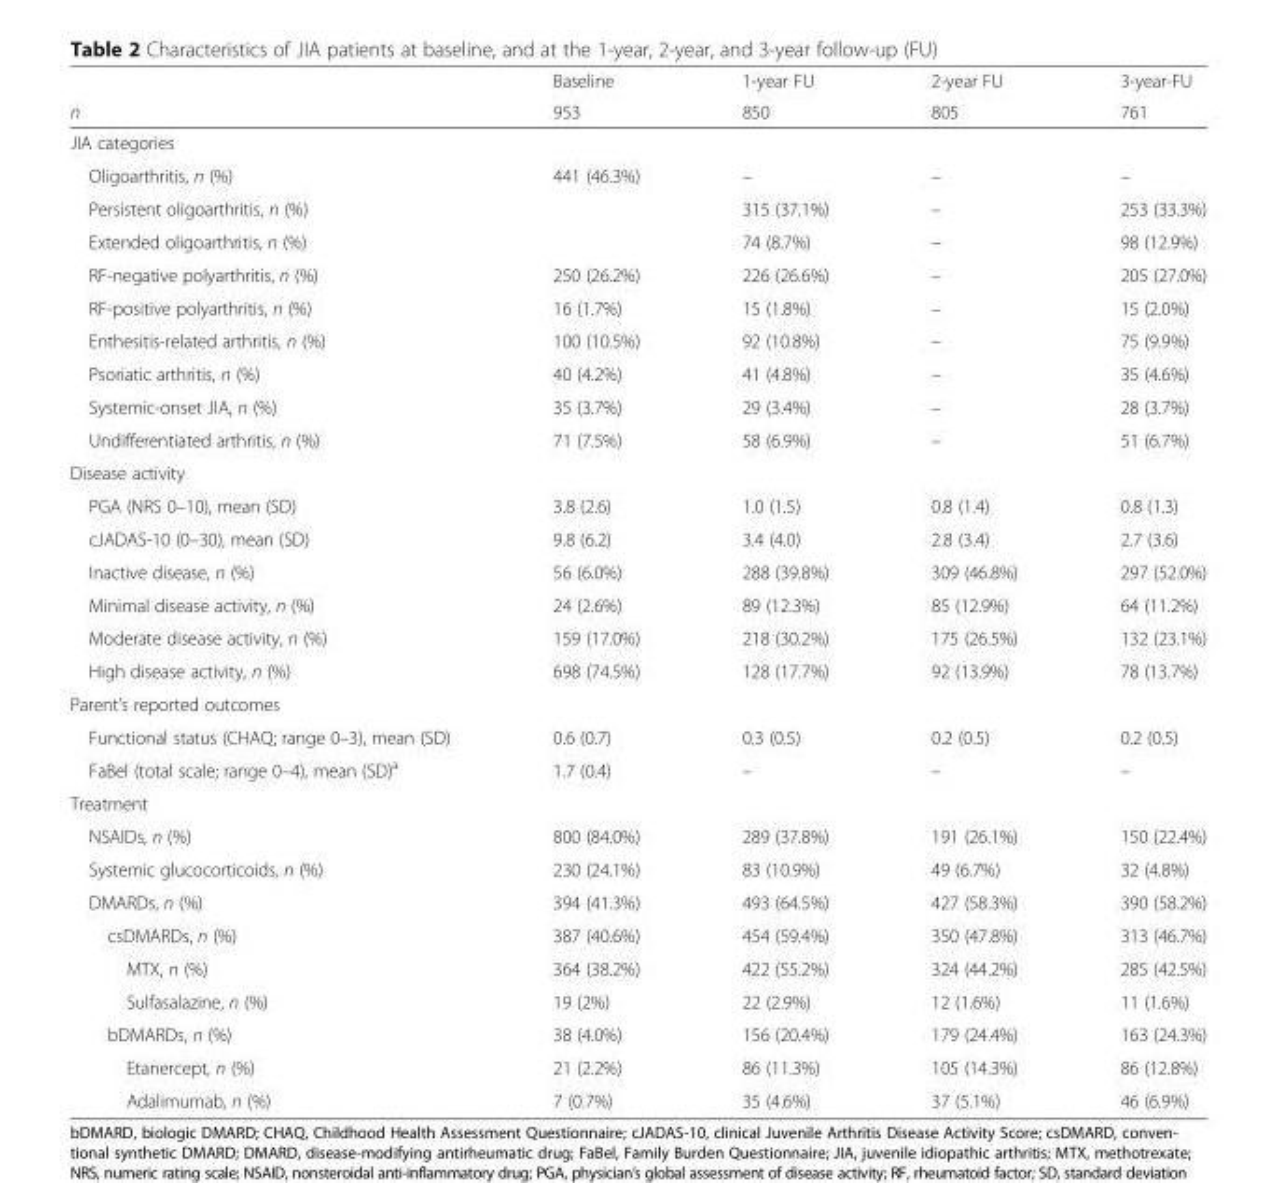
<table><thead><tr><td rowspan="2">n</td><td rowspan="2">Baseline 953</td><td rowspan="2">1-year FU 850</td><td rowspan="2">2-year FU 805</td><td rowspan="2">3-year-FU 761</td></tr><tr></tr></thead><tbody><tr><td colspan="5">JIA categories</td></tr><tr><td>Oligoarthritis, n (%)</td><td>441 (46.3%)</td><td>–</td><td>–</td><td>–</td></tr><tr><td>Persistent oligoarthritis, n (%)</td><td></td><td>315 (37.1%)</td><td>–</td><td>253 (33.3%)</td></tr><tr><td>Extended oligoarthritis, n (%)</td><td></td><td>74 (8.7%)</td><td>–</td><td>98 (12.9%)</td></tr><tr><td>RF-negative polyarthritis, n (%)</td><td>250 (26.2%)</td><td>226 (26.6%)</td><td>–</td><td>205 (27.0%)</td></tr><tr><td>RF-positive polyarthritis, n (%)</td><td>16 (1.7%)</td><td>15 (1.8%)</td><td>–</td><td>15 (2.0%)</td></tr><tr><td>Enthesitis-related arthritis, n (%)</td><td>100 (10.5%)</td><td>92 (10.8%)</td><td>–</td><td>75 (9.9%)</td></tr><tr><td>Psoriatic arthritis, n (%)</td><td>40 (4.2%)</td><td>41 (4.8%)</td><td>–</td><td>35 (4.6%)</td></tr><tr><td>Systemic-onset JIA, n (%)</td><td>35 (3.7%)</td><td>29 (3.4%)</td><td>–</td><td>28 (3.7%)</td></tr><tr><td>Undifferentiated arthritis, n (%)</td><td>71 (7.5%)</td><td>58 (6.9%)</td><td>–</td><td>51 (6.7%)</td></tr><tr><td colspan="5">Disease activity</td></tr><tr><td>PGA (NRS 0–10), mean (SD)</td><td>3.8 (2.6)</td><td>1.0 (1.5)</td><td>0.8 (1.4)</td><td>0.8 (1.3)</td></tr><tr><td>cJADAS-10 (0–30), mean (SD)</td><td>9.8 (6.2)</td><td>3.4 (4.0)</td><td>2.8 (3.4)</td><td>2.7 (3.6)</td></tr><tr><td>Inactive disease, n (%)</td><td>56 (6.0%)</td><td>288 (39.8%)</td><td>309 (46.8%)</td><td>297 (52.0%)</td></tr><tr><td>Minimal disease activity, n (%)</td><td>24 (2.6%)</td><td>89 (12.3%)</td><td>85 (12.9%)</td><td>64 (11.2%)</td></tr><tr><td>Moderate disease activity, n (%)</td><td>159 (17.0%)</td><td>218 (30.2%)</td><td>175 (26.5%)</td><td>132 (23.1%)</td></tr><tr><td>High disease activity, n (%)</td><td>698 (74.5%)</td><td>128 (17.7%)</td><td>92 (13.9%)</td><td>78 (13.7%)</td></tr><tr><td colspan="5">Parent’s reported outcomes</td></tr><tr><td>Functional status (CHAQ; range 0–3), mean (SD)</td><td>0.6 (0.7)</td><td>0.3 (0.5)</td><td>0.2 (0.5)</td><td>0.2 (0.5)</td></tr><tr><td>FaBel (total scale; range 0–4), mean (SD)<sup>a</sup></td><td>1.7 (0.4)</td><td>–</td><td>–</td><td>–</td></tr><tr><td colspan="5">Treatment</td></tr><tr><td>NSAIDs, n (%)</td><td>800 (84.0%)</td><td>289 (37.8%)</td><td>191 (26.1%)</td><td>150 (22.4%)</td></tr><tr><td>Systemic glucocorticoids, n (%)</td><td>230 (24.1%)</td><td>83 (10.9%)</td><td>49 (6.7%)</td><td>32 (4.8%)</td></tr><tr><td>DMARDs, n (%)</td><td>394 (41.3%)</td><td>493 (64.5%)</td><td>427 (58.3%)</td><td>390 (58.2%)</td></tr><tr><td>csDMARDs, n (%)</td><td>387 (40.6%)</td><td>454 (59.4%)</td><td>350 (47.8%)</td><td>313 (46.7%)</td></tr><tr><td>MTX, n (%)</td><td>364 (38.2%)</td><td>422 (55.2%)</td><td>324 (44.2%)</td><td>285 (42.5%)</td></tr><tr><td>Sulfasalazine, n (%)</td><td>19 (2%)</td><td>22 (2.9%)</td><td>12 (1.6%)</td><td>11 (1.6%)</td></tr><tr><td>bDMARDs, n (%)</td><td>38 (4.0%)</td><td>156 (20.4%)</td><td>179 (24.4%)</td><td>163 (24.3%)</td></tr><tr><td>Etanercept, n (%)</td><td>21 (2.2%)</td><td>86 (11.3%)</td><td>105 (14.3%)</td><td>86 (12.8%)</td></tr><tr><td>Adalimumab, n (%)</td><td>7 (0.7%)</td><td>35 (4.6%)</td><td>37 (5.1%)</td><td>46 (6.9%)</td></tr></tbody></table>